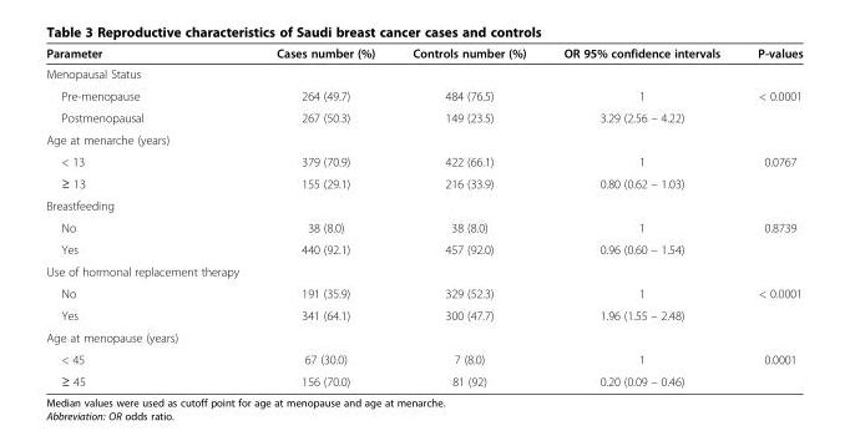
<table><thead><tr><td>Parameter</td><td>Cases number (%)</td><td>Controls number (%)</td><td>OR 95% confidence intervals</td><td>P-values</td></tr></thead><tbody><tr><td colspan="4">Menopausal Status</td><td rowspan="3">&lt; 0.0001</td></tr><tr><td>Pre-menopause</td><td>264 (49.7)</td><td>484 (76.5)</td><td>1</td></tr><tr><td>Postmenopausal</td><td>267 (50.3)</td><td>149 (23.5)</td><td>3.29 (2.56 – 4.22)</td></tr><tr><td colspan="4">Age at menarche (years)</td><td rowspan="3">0.0767</td></tr><tr><td>&lt; 13</td><td>379 (70.9)</td><td>422 (66.1)</td><td>1</td></tr><tr><td>≥ 13</td><td>155 (29.1)</td><td>216 (33.9)</td><td>0.80 (0.62 – 1.03)</td></tr><tr><td colspan="4">Breastfeeding</td><td rowspan="3">0.8739</td></tr><tr><td>No</td><td>38 (8.0)</td><td>38 (8.0)</td><td>1</td></tr><tr><td>Yes</td><td>440 (92.1)</td><td>457 (92.0)</td><td>0.96 (0.60 – 1.54)</td></tr><tr><td colspan="4">Use of hormonal replacement therapy</td><td rowspan="3">&lt; 0.0001</td></tr><tr><td>No</td><td>191 (35.9)</td><td>329 (52.3)</td><td>1</td></tr><tr><td>Yes</td><td>341 (64.1)</td><td>300 (47.7)</td><td>1.96 (1.55 – 2.48)</td></tr><tr><td colspan="4">Age at menopause (years)</td><td rowspan="3">0.0001</td></tr><tr><td>&lt; 45</td><td>67 (30.0)</td><td>7 (8.0)</td><td>1</td></tr><tr><td>≥ 45</td><td>156 (70.0)</td><td>81 (92)</td><td>0.20 (0.09 – 0.46)</td></tr></tbody></table>